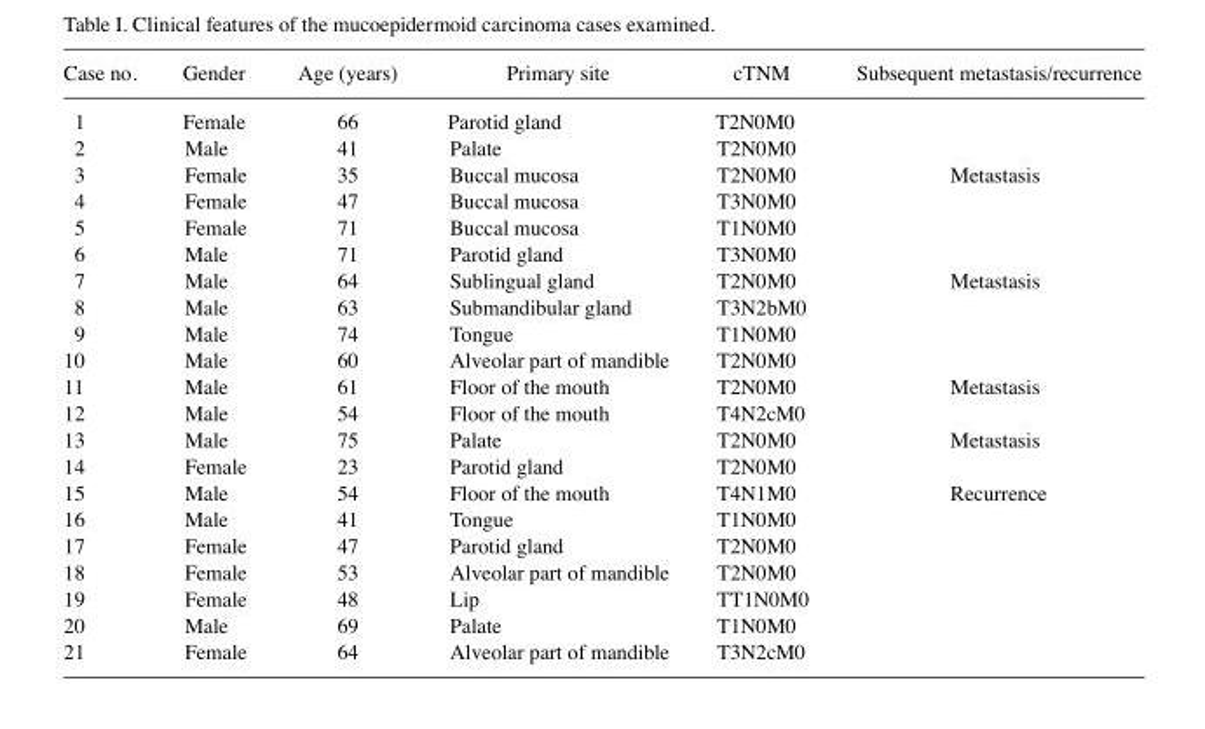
<table><thead><tr><td>Case no.</td><td>Gender</td><td>Age (years)</td><td>Primary site</td><td>cTNM</td><td>Subsequent metastasis/recurrence</td></tr></thead><tbody><tr><td>1</td><td>Female</td><td>66</td><td>Parotid gland</td><td>T2N0M0</td><td></td></tr><tr><td>2</td><td>Male</td><td>41</td><td>Palate</td><td>T2N0M0</td><td></td></tr><tr><td>3</td><td>Female</td><td>35</td><td>Buccal mucosa</td><td>T2N0M0</td><td>Metastasis</td></tr><tr><td>4</td><td>Female</td><td>47</td><td>Buccal mucosa</td><td>T3N0M0</td><td></td></tr><tr><td>5</td><td>Female</td><td>71</td><td>Buccal mucosa</td><td>T1N0M0</td><td></td></tr><tr><td>6</td><td>Male</td><td>71</td><td>Parotid gland</td><td>T3N0M0</td><td></td></tr><tr><td>7</td><td>Male</td><td>64</td><td>Sublingual gland</td><td>T2N0M0</td><td>Metastasis</td></tr><tr><td>8</td><td>Male</td><td>63</td><td>Submandibular gland</td><td>T3N2bM0</td><td></td></tr><tr><td>9</td><td>Male</td><td>74</td><td>Tongue</td><td>T1N0M0</td><td></td></tr><tr><td>10</td><td>Male</td><td>60</td><td>Alveolar part of mandible</td><td>T2N0M0</td><td></td></tr><tr><td>11</td><td>Male</td><td>61</td><td>Floor of the mouth</td><td>T2N0M0</td><td>Metastasis</td></tr><tr><td>12</td><td>Male</td><td>54</td><td>Floor of the mouth</td><td>T4N2cM0</td><td></td></tr><tr><td>13</td><td>Male</td><td>75</td><td>Palate</td><td>T2N0M0</td><td>Metastasis</td></tr><tr><td>14</td><td>Female</td><td>23</td><td>Parotid gland</td><td>T2N0M0</td><td></td></tr><tr><td>15</td><td>Male</td><td>54</td><td>Floor of the mouth</td><td>T4N1M0</td><td>Recurrence</td></tr><tr><td>16</td><td>Male</td><td>41</td><td>Tongue</td><td>T1N0M0</td><td></td></tr><tr><td>17</td><td>Female</td><td>47</td><td>Parotid gland</td><td>T2N0M0</td><td></td></tr><tr><td>18</td><td>Female</td><td>53</td><td>Alveolar part of mandible</td><td>T2N0M0</td><td></td></tr><tr><td>19</td><td>Female</td><td>48</td><td>Lip</td><td>TT1N0M0</td><td></td></tr><tr><td>20</td><td>Male</td><td>69</td><td>Palate</td><td>T1N0M0</td><td></td></tr><tr><td>21</td><td>Female</td><td>64</td><td>Alveolar part of mandible</td><td>T3N2cM0</td><td></td></tr></tbody></table>